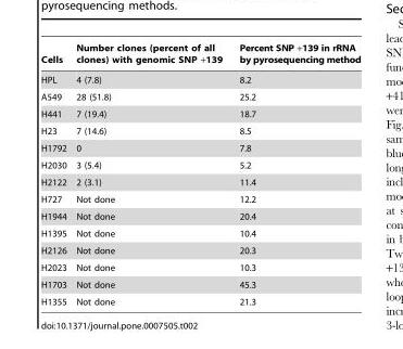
<table><thead><tr><td>Cells</td><td>Number clones (percent of all clones) with genomic SNP +139</td><td>Percent SNP +139 in rRNA by pyrosequencing method</td></tr></thead><tbody><tr><td>HPL</td><td>4 (7.8)</td><td>8.2</td></tr><tr><td>A549</td><td>28 (51.8)</td><td>25.2</td></tr><tr><td>H441</td><td>7 (19.4)</td><td>18.7</td></tr><tr><td>H23</td><td>7 (14.6)</td><td>8.5</td></tr><tr><td>H1792</td><td>0</td><td>7.8</td></tr><tr><td>H2030</td><td>3 (5.4)</td><td>5.2</td></tr><tr><td>H2122</td><td>2 (3.1)</td><td>11.4</td></tr><tr><td>H727</td><td>Not done</td><td>12.2</td></tr><tr><td>H1944</td><td>Not done</td><td>20.4</td></tr><tr><td>H1395</td><td>Not done</td><td>10.4</td></tr><tr><td>H2126</td><td>Not done</td><td>20.3</td></tr><tr><td>H2023</td><td>Not done</td><td>10.3</td></tr><tr><td>H1703</td><td>Not done</td><td>45.3</td></tr><tr><td>H1355</td><td>Not done</td><td>21.3</td></tr></tbody></table>